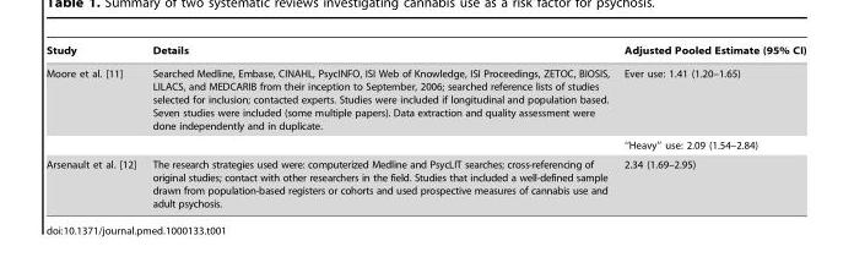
<table><thead><tr><td>Study</td><td>Details</td><td>Adjusted Pooled Estimate (95% CI)</td></tr></thead><tbody><tr><td rowspan="2">Moore et al. [11]</td><td>Searched Medline, Embase, CINAHL, PsycINFO, ISI Web of Knowledge, ISI Proceedings, ZETOC, BIOSIS, LILACS, and MEDCARIB from their inception to September, 2006; searched reference lists of studies selected for inclusion; contacted experts. Studies were included if longitudinal and population based. Seven studies were included (some multiple papers). Data extraction and quality assessment were done independently and in duplicate.</td><td>Ever use: 1.41 (1.20–1.65)</td></tr><tr><td></td><td>‘‘Heavy’’ use: 2.09 (1.54–2.84)</td></tr><tr><td>Arsenault et al. [12]</td><td>The research strategies used were: computerized Medline and PsycLIT searches; cross-referencing of original studies; contact with other researchers in the field. Studies that included a well-defined sample drawn from population-based registers or cohorts and used prospective measures of cannabis use and adult psychosis.</td><td>2.34 (1.69–2.95)</td></tr></tbody></table>